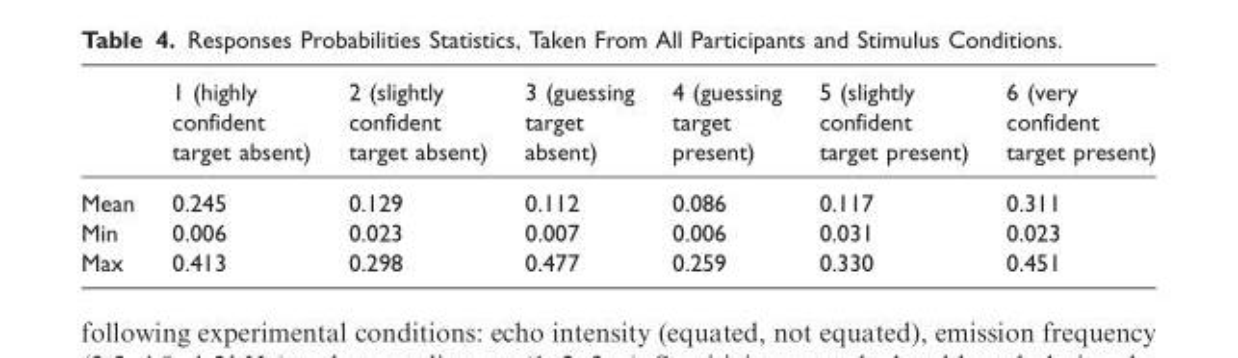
<table><thead><tr><td></td><td>1 (highly confident target absent)</td><td>2 (slightly confident target absent)</td><td>3 (guessing target absent)</td><td>4 (guessing target present)</td><td>5 (slightly confident target present)</td><td>6 (very confident target present)</td></tr></thead><tbody><tr><td>Mean</td><td>0.245</td><td>0.129</td><td>0.112</td><td>0.086</td><td>0.117</td><td>0.311</td></tr><tr><td>Min</td><td>0.006</td><td>0.023</td><td>0.007</td><td>0.006</td><td>0.031</td><td>0.023</td></tr><tr><td>Max</td><td>0.413</td><td>0.298</td><td>0.477</td><td>0.259</td><td>0.330</td><td>0.451</td></tr></tbody></table>